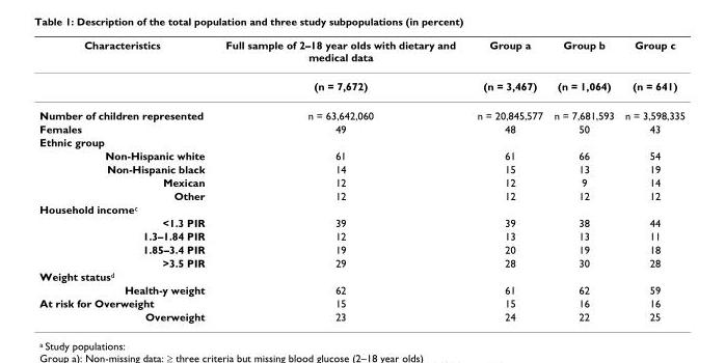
<table><thead><tr><td>Characteristics</td><td>Full sample of 2–18 year olds with dietary and medical data</td><td>Group a</td><td>Group b</td><td>Group c</td></tr></thead><tbody><tr><td></td><td>(n = 7,672)</td><td>(n = 3,467)</td><td>(n = 1,064)</td><td>(n = 641)</td></tr><tr><td>Number of children represented</td><td>n = 63,642,060</td><td>n = 20,845,577</td><td>n = 7,681,593</td><td>n = 3,598,335</td></tr><tr><td>Females</td><td>49</td><td>48</td><td>50</td><td>43</td></tr><tr><td colspan="5">Ethnic group</td></tr><tr><td>Non-Hispanic white</td><td>61</td><td>61</td><td>66</td><td>54</td></tr><tr><td>Non-Hispanic black</td><td>14</td><td>15</td><td>13</td><td>19</td></tr><tr><td>Mexican</td><td>12</td><td>12</td><td>9</td><td>14</td></tr><tr><td>Other</td><td>12</td><td>12</td><td>12</td><td>12</td></tr><tr><td colspan="5">Household income<sup>c</sup></td></tr><tr><td>&lt;1.3 PIR</td><td>39</td><td>39</td><td>38</td><td>44</td></tr><tr><td>1.3–1.84 PIR</td><td>12</td><td>13</td><td>13</td><td>11</td></tr><tr><td>1.85–3.4 PIR</td><td>19</td><td>20</td><td>19</td><td>18</td></tr><tr><td>&gt;3.5 PIR</td><td>29</td><td>28</td><td>30</td><td>28</td></tr><tr><td colspan="5">Weight status<sup>d</sup></td></tr><tr><td>Health-y weight</td><td>62</td><td>61</td><td>62</td><td>59</td></tr><tr><td>At risk for Overweight</td><td>15</td><td>15</td><td>16</td><td>16</td></tr><tr><td>Overweight</td><td>23</td><td>24</td><td>22</td><td>25</td></tr></tbody></table>